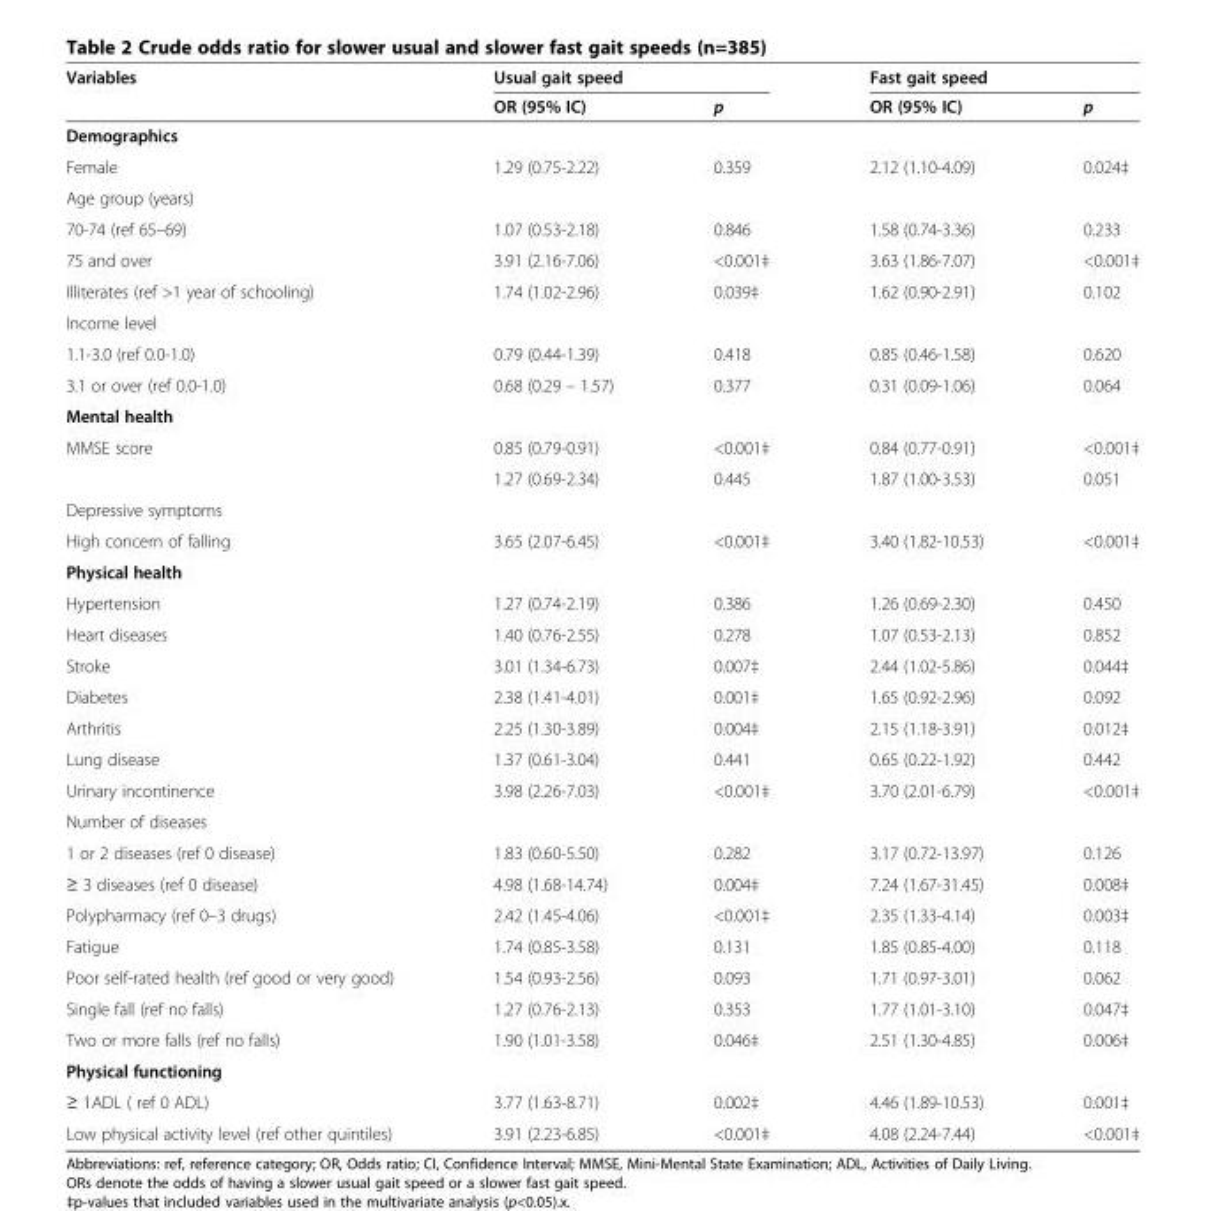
<table><thead><tr><td rowspan="2">Variables</td><td colspan="2">Usual gait speed</td><td colspan="2">Fast gait speed</td></tr><tr><td>OR (95% IC)</td><td>p</td><td>OR (95% IC)</td><td>p</td></tr></thead><tbody><tr><td colspan="5">Demographics</td></tr><tr><td>Female</td><td>1.29 (0.75-2.22)</td><td>0.359</td><td>2.12 (1.10-4.09)</td><td>0.024‡</td></tr><tr><td colspan="5">Age group (years)</td></tr><tr><td>70-74 (ref 65–69)</td><td>1.07 (0.53-2.18)</td><td>0.846</td><td>1.58 (0.74-3.36)</td><td>0.233</td></tr><tr><td>75 and over</td><td>3.91 (2.16-7.06)</td><td>&lt;0.001‡</td><td>3.63 (1.86-7.07)</td><td>&lt;0.001‡</td></tr><tr><td>Illiterates (ref &gt;1 year of schooling)</td><td>1.74 (1.02-2.96)</td><td>0.039‡</td><td>1.62 (0.90-2.91)</td><td>0.102</td></tr><tr><td colspan="5">Income level</td></tr><tr><td>1.1-3.0 (ref 0.0-1.0)</td><td>0.79 (0.44-1.39)</td><td>0.418</td><td>0.85 (0.46-1.58)</td><td>0.620</td></tr><tr><td>3.1 or over (ref 0.0-1.0)</td><td>0.68 (0.29 – 1.57)</td><td>0.377</td><td>0.31 (0.09-1.06)</td><td>0.064</td></tr><tr><td colspan="5">Mental health</td></tr><tr><td rowspan="2">MMSE score</td><td>0.85 (0.79-0.91)</td><td>&lt;0.001‡</td><td>0.84 (0.77-0.91)</td><td>&lt;0.001‡</td></tr><tr><td>1.27 (0.69-2.34)</td><td>0.445</td><td>1.87 (1.00-3.53)</td><td>0.051</td></tr><tr><td colspan="5">Depressive symptoms</td></tr><tr><td>High concern of falling</td><td>3.65 (2.07-6.45)</td><td>&lt;0.001‡</td><td>3.40 (1.82-10.53)</td><td>&lt;0.001‡</td></tr><tr><td colspan="5">Physical health</td></tr><tr><td>Hypertension</td><td>1.27 (0.74-2.19)</td><td>0.386</td><td>1.26 (0.69-2.30)</td><td>0.450</td></tr><tr><td>Heart diseases</td><td>1.40 (0.76-2.55)</td><td>0.278</td><td>1.07 (0.53-2.13)</td><td>0.852</td></tr><tr><td>Stroke</td><td>3.01 (1.34-6.73)</td><td>0.007‡</td><td>2.44 (1.02-5.86)</td><td>0.044‡</td></tr><tr><td>Diabetes</td><td>2.38 (1.41-4.01)</td><td>0.001‡</td><td>1.65 (0.92-2.96)</td><td>0.092</td></tr><tr><td>Arthritis</td><td>2.25 (1.30-3.89)</td><td>0.004‡</td><td>2.15 (1.18-3.91)</td><td>0.012‡</td></tr><tr><td>Lung disease</td><td>1.37 (0.61-3.04)</td><td>0.441</td><td>0.65 (0.22-1.92)</td><td>0.442</td></tr><tr><td>Urinary incontinence</td><td>3.98 (2.26-7.03)</td><td>&lt;0.001‡</td><td>3.70 (2.01-6.79)</td><td>&lt;0.001‡</td></tr><tr><td colspan="5">Number of diseases</td></tr><tr><td>1 or 2 diseases (ref 0 disease)</td><td>1.83 (0.60-5.50)</td><td>0.282</td><td>3.17 (0.72-13.97)</td><td>0.126</td></tr><tr><td>≥ 3 diseases (ref 0 disease)</td><td>4.98 (1.68-14.74)</td><td>0.004‡</td><td>7.24 (1.67-31.45)</td><td>0.008‡</td></tr><tr><td>Polypharmacy (ref 0–3 drugs)</td><td>2.42 (1.45-4.06)</td><td>&lt;0.001‡</td><td>2.35 (1.33-4.14)</td><td>0.003‡</td></tr><tr><td>Fatigue</td><td>1.74 (0.85-3.58)</td><td>0.131</td><td>1.85 (0.85-4.00)</td><td>0.118</td></tr><tr><td>Poor self-rated health (ref good or very good)</td><td>1.54 (0.93-2.56)</td><td>0.093</td><td>1.71 (0.97-3.01)</td><td>0.062</td></tr><tr><td>Single fall (ref no falls)</td><td>1.27 (0.76-2.13)</td><td>0.353</td><td>1.77 (1.01-3.10)</td><td>0.047‡</td></tr><tr><td>Two or more falls (ref no falls)</td><td>1.90 (1.01-3.58)</td><td>0.046‡</td><td>2.51 (1.30-4.85)</td><td>0.006‡</td></tr><tr><td colspan="5">Physical functioning</td></tr><tr><td>≥ 1ADL ( ref 0 ADL)</td><td>3.77 (1.63-8.71)</td><td>0.002‡</td><td>4.46 (1.89-10.53)</td><td>0.001‡</td></tr><tr><td>Low physical activity level (ref other quintiles)</td><td>3.91 (2.23-6.85)</td><td>&lt;0.001‡</td><td>4.08 (2.24-7.44)</td><td>&lt;0.001‡</td></tr></tbody></table>